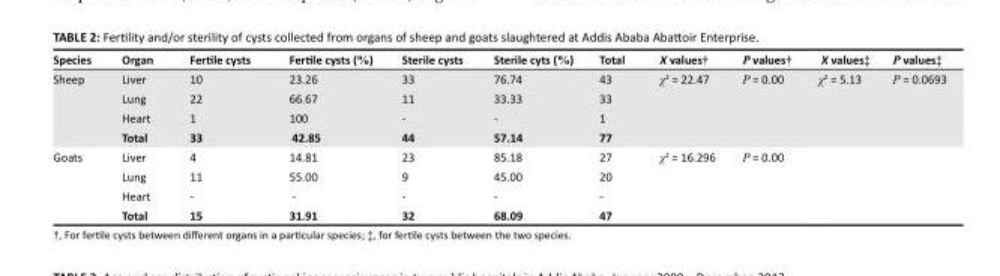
<table><thead><tr><td>Species</td><td>Organ</td><td>Fertile cysts</td><td>Fertile cysts (%)</td><td>Sterile cysts</td><td>Sterile cyts (%)</td><td>Total</td><td>X values†</td><td>P values†</td><td>X values‡</td><td>P values‡</td></tr></thead><tbody><tr><td rowspan="4">Sheep</td><td>Liver</td><td>10</td><td>23.26</td><td>33</td><td>76.74</td><td>43</td><td>χ<sup>2</sup> = 22.47</td><td>P = 0.00</td><td>χ<sup>2</sup> = 5.13</td><td>P = 0.0693</td></tr><tr><td>Lung</td><td>22</td><td>66.67</td><td>11</td><td>33.33</td><td>33</td><td></td><td></td><td></td><td></td></tr><tr><td>Heart</td><td>1</td><td>100</td><td>-</td><td>-</td><td>1</td><td></td><td></td><td></td><td></td></tr><tr><td>Total</td><td>33</td><td>42.85</td><td>44</td><td>57.14</td><td>77</td><td></td><td></td><td></td><td></td></tr><tr><td rowspan="4">Goats</td><td>Liver</td><td>4</td><td>14.81</td><td>23</td><td>85.18</td><td>27</td><td>χ<sup>2</sup> = 16.296</td><td>P = 0.00</td><td></td><td></td></tr><tr><td>Lung</td><td>11</td><td>55.00</td><td>9</td><td>45.00</td><td>20</td><td></td><td></td><td></td><td></td></tr><tr><td>Heart</td><td>-</td><td>-</td><td>-</td><td>-</td><td>-</td><td></td><td></td><td></td><td></td></tr><tr><td>Total</td><td>15</td><td>31.91</td><td>32</td><td>68.09</td><td>47</td><td></td><td></td><td></td><td></td></tr></tbody></table>